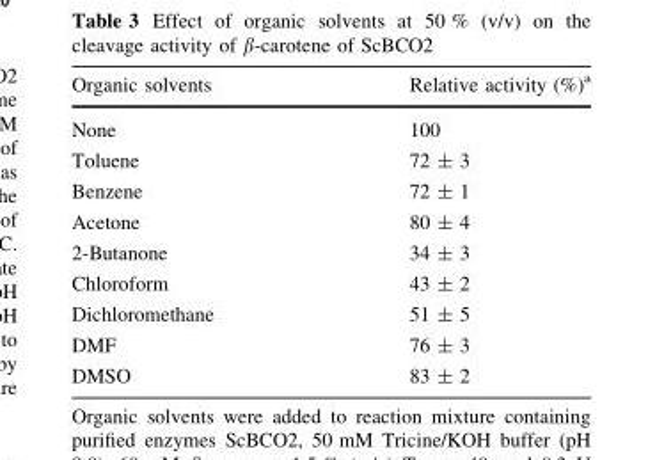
<table><thead><tr><td>Organic solvents</td><td>Relative activity (%)<sup>a</sup></td></tr></thead><tbody><tr><td>None</td><td>100</td></tr><tr><td>Toluene</td><td>72 ± 3</td></tr><tr><td>Benzene</td><td>72 ± 1</td></tr><tr><td>Acetone</td><td>80 ± 4</td></tr><tr><td>2-Butanone</td><td>34 ± 3</td></tr><tr><td>Chloroform</td><td>43 ± 2</td></tr><tr><td>Dichloromethane</td><td>51 ± 5</td></tr><tr><td>DMF</td><td>76 ± 3</td></tr><tr><td>DMSO</td><td>83 ± 2</td></tr></tbody></table>